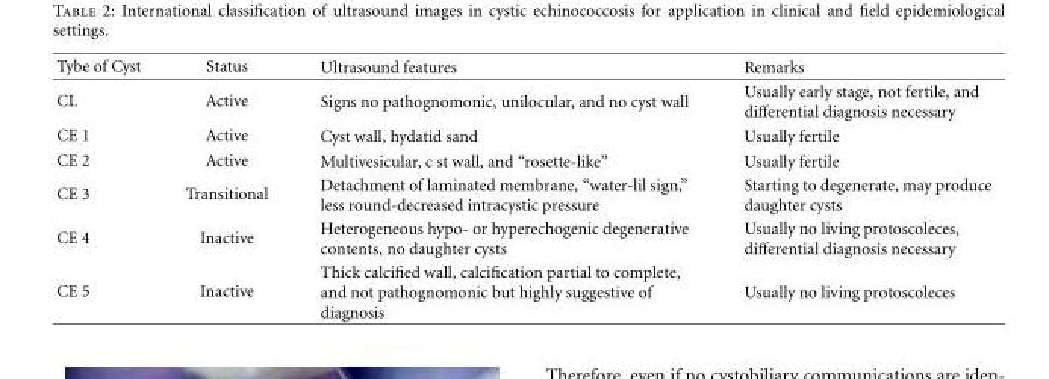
<table><thead><tr><td>Tybe of Cyst</td><td>Status</td><td>Ultrasound features</td><td>Remarks</td></tr></thead><tbody><tr><td>CL</td><td>Active</td><td>Signs no pathognomonic, unilocular, and no cyst wall</td><td>Usually early stage, not fertile, and differential diagnosis necessary</td></tr><tr><td>CE 1</td><td>Active</td><td>Cyst wall, hydatid sand</td><td>Usually fertile</td></tr><tr><td>CE 2</td><td>Active</td><td>Multivesicular, c st wall, and “rosette-like”</td><td>Usually fertile</td></tr><tr><td>CE 3</td><td>Transitional</td><td>Detachment of laminated membrane, “water-lil sign,” less round-decreased intracystic pressure</td><td>Starting to degenerate, may produce daughter cysts</td></tr><tr><td>CE 4</td><td>Inactive</td><td>Heterogeneous hypo- or hyperechogenic degenerative contents, no daughter cysts</td><td>Usually no living protoscoleces, differential diagnosis necessary</td></tr><tr><td>CE 5</td><td>Inactive</td><td>Thick calcified wall, calcification partial to complete, and not pathognomonic but highly suggestive of diagnosis</td><td>Usually no living protoscoleces</td></tr></tbody></table>